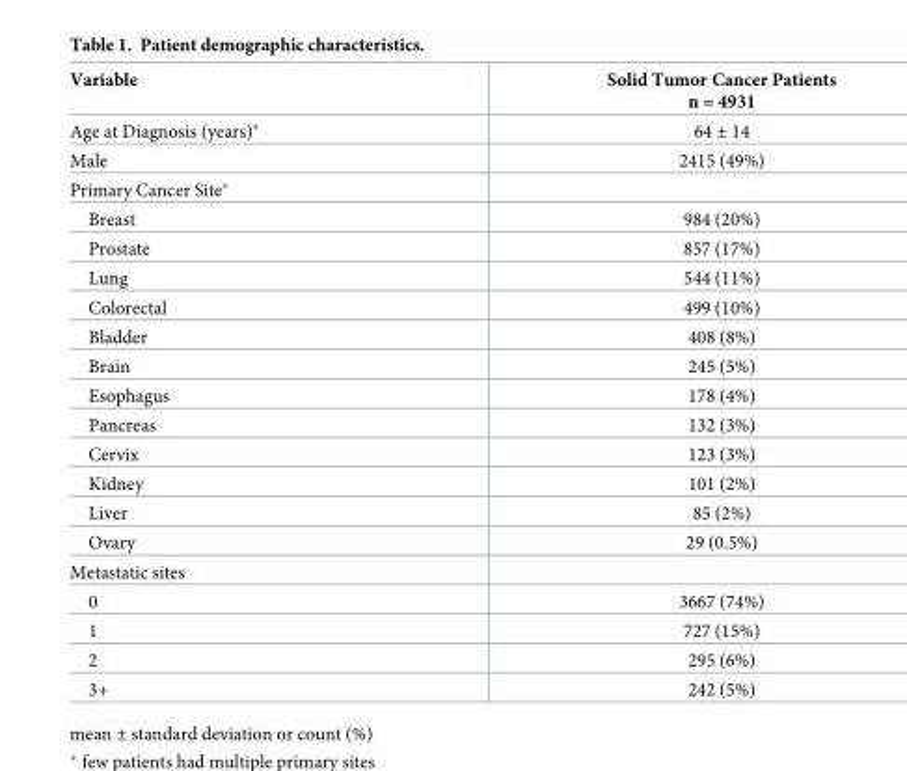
<table><thead><tr><td>Variable</td><td>Solid Tumor Cancer Patients n = 4931</td></tr></thead><tbody><tr><td>Age at Diagnosis (years)*</td><td>64 ± 14</td></tr><tr><td>Male</td><td>2415 (49%)</td></tr><tr><td colspan="2">Primary Cancer Site*</td></tr><tr><td>Breast</td><td>984 (20%)</td></tr><tr><td>Prostate</td><td>857 (17%)</td></tr><tr><td>Lung</td><td>544 (11%)</td></tr><tr><td>Colorectal</td><td>499 (10%)</td></tr><tr><td>Bladder</td><td>408 (8%)</td></tr><tr><td>Brain</td><td>245 (5%)</td></tr><tr><td>Esophagus</td><td>178 (4%)</td></tr><tr><td>Pancreas</td><td>132 (3%)</td></tr><tr><td>Cervix</td><td>123 (3%)</td></tr><tr><td>Kidney</td><td>101 (2%)</td></tr><tr><td>Liver</td><td>85 (2%)</td></tr><tr><td>Ovary</td><td>29 (0.5%)</td></tr><tr><td colspan="2">Metastatic sites</td></tr><tr><td>0</td><td>3667 (74%)</td></tr><tr><td>1</td><td>727 (15%)</td></tr><tr><td>2</td><td>295 (6%)</td></tr><tr><td>3+</td><td>242 (5%)</td></tr></tbody></table>